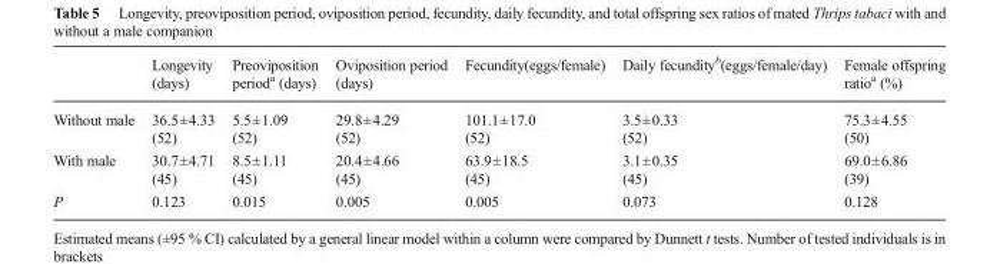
<table><thead><tr><td></td><td>Longevity (days)</td><td>Preoviposition period<sup>a</sup> (days)</td><td>Oviposition period (days)</td><td>Fecundity(eggs/female)</td><td>Daily fecundity<sup>b</sup>(eggs/female/day)</td><td>Female offspring ratio<sup>a</sup> (%)</td></tr></thead><tbody><tr><td>Without male</td><td>36.5±4.33 (52)</td><td>5.5±1.09 (52)</td><td>29.8±4.29 (52)</td><td>101.1±17.0 (52)</td><td>3.5±0.33 (52)</td><td>75.3±4.55 (50)</td></tr><tr><td>With male</td><td>30.7±4.71 (45)</td><td>8.5±1.11 (45)</td><td>20.4±4.66 (45)</td><td>63.9±18.5 (45)</td><td>3.1±0.35 (45)</td><td>69.0±6.86 (39)</td></tr><tr><td>P</td><td>0.123</td><td>0.015</td><td>0.005</td><td>0.005</td><td>0.073</td><td>0.128</td></tr></tbody></table>